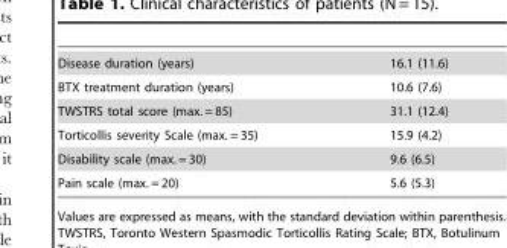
<table><tbody><tr><td>Disease duration (years)</td><td>16.1 (11.6)</td></tr><tr><td>BTX treatment duration (years)</td><td>10.6 (7.6)</td></tr><tr><td>TWSTRS total score (max. = 85)</td><td>31.1 (12.4)</td></tr><tr><td>Torticollis severity Scale (max. = 35)</td><td>15.9 (4.2)</td></tr><tr><td>Disability scale (max. = 30)</td><td>9.6 (6.5)</td></tr><tr><td>Pain scale (max. = 20)</td><td>5.6 (5.3)</td></tr></tbody></table>